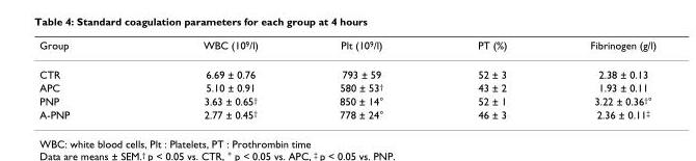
<table><thead><tr><td>Group</td><td>WBC (10<sup>9</sup>/l)</td><td>Plt (10<sup>9</sup>/l)</td><td>PT (%)</td><td>Fibrinogen (g/l)</td></tr></thead><tbody><tr><td>CTR</td><td>6.69 ± 0.76</td><td>793 ± 59</td><td>52 ± 3</td><td>2.38 ± 0.13</td></tr><tr><td>APC</td><td>5.10 ± 0.91</td><td>580 ± 53<sup>†</sup></td><td>43 ± 2</td><td>1.93 ± 0.11</td></tr><tr><td>PNP</td><td>3.63 ± 0.65<sup>†</sup></td><td>850 ± 14°</td><td>52 ± 1</td><td>3.22 ± 0.36<sup>†</sup>°</td></tr><tr><td>A-PNP</td><td>2.77 ± 0.45<sup>†</sup></td><td>778 ± 24°</td><td>46 ± 3</td><td>2.36 ± 0.11<sup>‡</sup></td></tr></tbody></table>